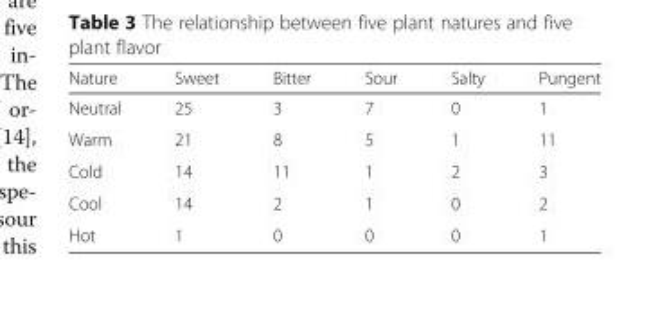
<table><thead><tr><td>Nature</td><td>Sweet</td><td>Bitter</td><td>Sour</td><td>Salty</td><td>Pungent</td></tr></thead><tbody><tr><td>Neutral</td><td>25</td><td>3</td><td>7</td><td>0</td><td>1</td></tr><tr><td>Warm</td><td>21</td><td>8</td><td>5</td><td>1</td><td>11</td></tr><tr><td>Cold</td><td>14</td><td>11</td><td>1</td><td>2</td><td>3</td></tr><tr><td>Cool</td><td>14</td><td>2</td><td>1</td><td>0</td><td>2</td></tr><tr><td>Hot</td><td>1</td><td>0</td><td>0</td><td>0</td><td>1</td></tr></tbody></table>